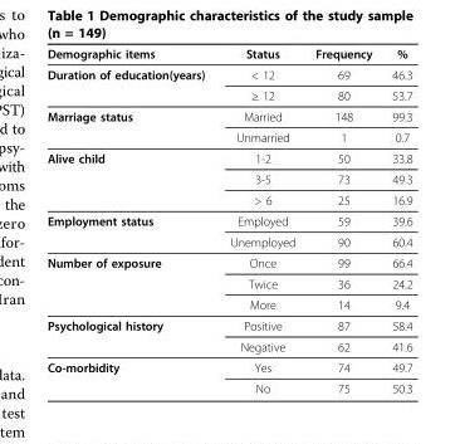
<table><thead><tr><td>Demographic items</td><td>Status</td><td>Frequency</td><td>%</td></tr></thead><tbody><tr><td rowspan="2">Duration of education(years)</td><td>&lt; 12</td><td>69</td><td>46.3</td></tr><tr><td>≥ 12</td><td>80</td><td>53.7</td></tr><tr><td rowspan="2">Marriage status</td><td>Married</td><td>148</td><td>99.3</td></tr><tr><td>Unmarried</td><td>1</td><td>0.7</td></tr><tr><td rowspan="3">Alive child</td><td>1-2</td><td>50</td><td>33.8</td></tr><tr><td>3-5</td><td>73</td><td>49.3</td></tr><tr><td>&gt; 6</td><td>25</td><td>16.9</td></tr><tr><td rowspan="2">Employment status</td><td>Employed</td><td>59</td><td>39.6</td></tr><tr><td>Unemployed</td><td>90</td><td>60.4</td></tr><tr><td rowspan="3">Number of exposure</td><td>Once</td><td>99</td><td>66.4</td></tr><tr><td>Twice</td><td>36</td><td>24.2</td></tr><tr><td>More</td><td>14</td><td>9.4</td></tr><tr><td rowspan="2">Psychological history</td><td>Positive</td><td>87</td><td>58.4</td></tr><tr><td>Negative</td><td>62</td><td>41.6</td></tr><tr><td rowspan="2">Co-morbidity</td><td>Yes</td><td>74</td><td>49.7</td></tr><tr><td>No</td><td>75</td><td>50.3</td></tr></tbody></table>